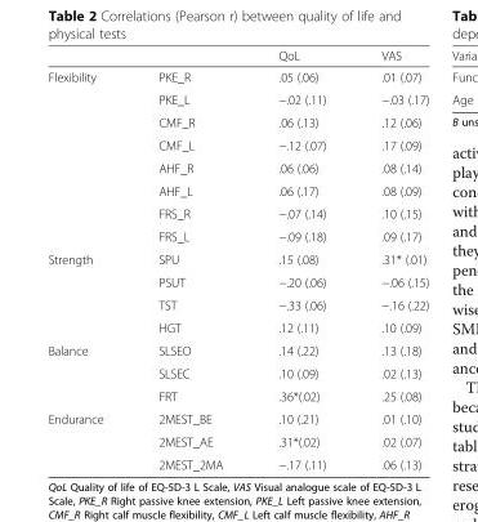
<table><thead><tr><td></td><td></td><td>QoL</td><td>VAS</td></tr></thead><tbody><tr><td rowspan="8">Flexibility</td><td>PKE_R</td><td>.05 (.06)</td><td>.01 (.07)</td></tr><tr><td>PKE_L</td><td>−.02 (.11)</td><td>−.03 (.17)</td></tr><tr><td>CMF_R</td><td>.06 (.13)</td><td>.12 (.06)</td></tr><tr><td>CMF_L</td><td>−.12 (.07)</td><td>.17 (.09)</td></tr><tr><td>AHF_R</td><td>.06 (.06)</td><td>.08 (.14)</td></tr><tr><td>AHF_L</td><td>.06 (.17)</td><td>.08 (.09)</td></tr><tr><td>FRS_R</td><td>−.07 (.14)</td><td>.10 (.15)</td></tr><tr><td>FRS_L</td><td>−.09 (.18)</td><td>.09 (.17)</td></tr><tr><td rowspan="4">Strength</td><td>SPU</td><td>.15 (.08)</td><td>.31* (.01)</td></tr><tr><td>PSUT</td><td>−.20 (.06)</td><td>−.06 (.15)</td></tr><tr><td>TST</td><td>−.33 (.06)</td><td>−.16 (.22)</td></tr><tr><td>HGT</td><td>.12 (.11)</td><td>.10 (.09)</td></tr><tr><td rowspan="3">Balance</td><td>SLSEO</td><td>.14 (.22)</td><td>.13 (.18)</td></tr><tr><td>SLSEC</td><td>.10 (.09)</td><td>.02 (.13)</td></tr><tr><td>FRT</td><td>.36*(.02)</td><td>.25 (.08)</td></tr><tr><td rowspan="3">Endurance</td><td>2MEST_BE</td><td>.10 (.21)</td><td>.01 (.10)</td></tr><tr><td>2MEST_AE</td><td>.31*(.02)</td><td>.02 (.07)</td></tr><tr><td>2MEST_2MA</td><td>−.17 (.11)</td><td>.06 (.13)</td></tr></tbody></table>